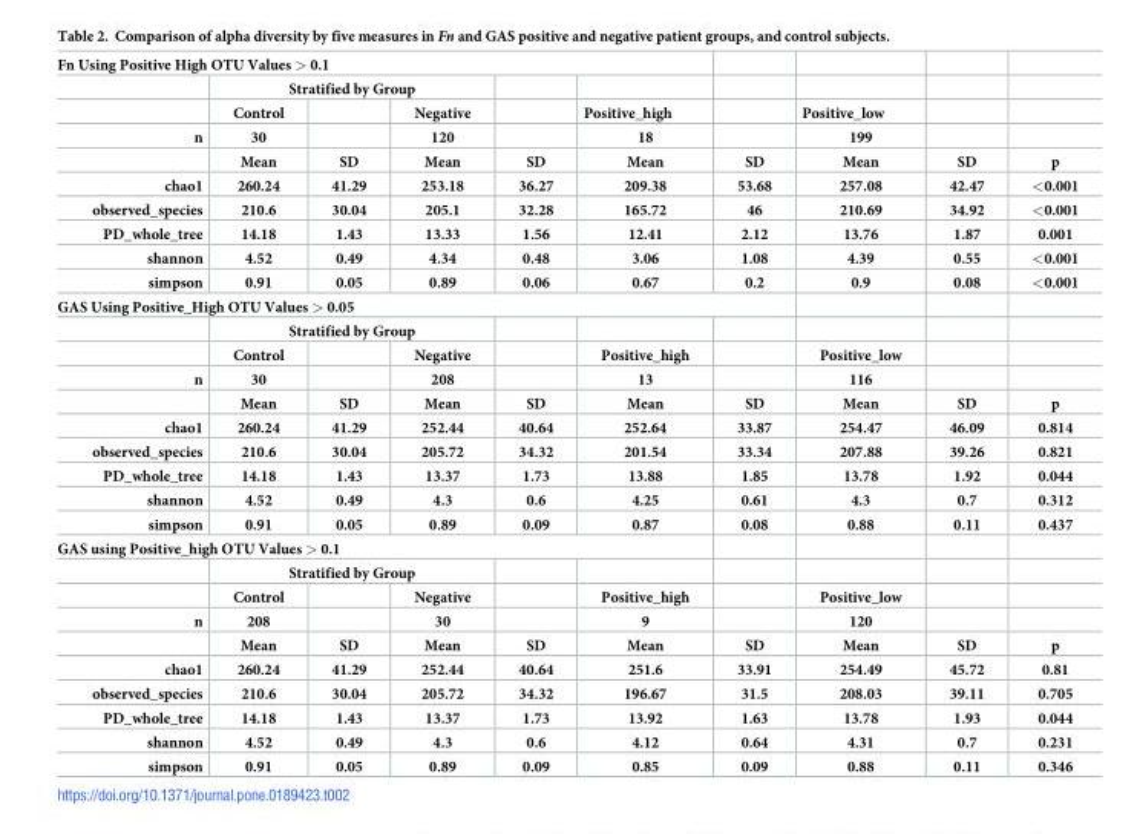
<table><tbody><tr><td colspan="10">Fn Using Positive High OTU Values &gt; 0.1</td></tr><tr><td></td><td colspan="3">Stratified by Group</td><td></td><td></td><td></td><td></td><td></td><td></td></tr><tr><td></td><td>Control</td><td></td><td>Negative</td><td></td><td>Positive_high</td><td></td><td>Positive_low</td><td></td><td></td></tr><tr><td rowspan="2">n</td><td>30</td><td></td><td>120</td><td></td><td>18</td><td></td><td>199</td><td></td><td></td></tr><tr><td>Mean</td><td>SD</td><td>Mean</td><td>SD</td><td>Mean</td><td>SD</td><td>Mean</td><td>SD</td><td>p</td></tr><tr><td>chao1</td><td>260.24</td><td>41.29</td><td>253.18</td><td>36.27</td><td>209.38</td><td>53.68</td><td>257.08</td><td>42.47</td><td>&lt;0.001</td></tr><tr><td>observed_species</td><td>210.6</td><td>30.04</td><td>205.1</td><td>32.28</td><td>165.72</td><td>46</td><td>210.69</td><td>34.92</td><td>&lt;0.001</td></tr><tr><td>PD_whole_tree</td><td>14.18</td><td>1.43</td><td>13.33</td><td>1.56</td><td>12.41</td><td>2.12</td><td>13.76</td><td>1.87</td><td>0.001</td></tr><tr><td>shannon</td><td>4.52</td><td>0.49</td><td>4.34</td><td>0.48</td><td>3.06</td><td>1.08</td><td>4.39</td><td>0.55</td><td>&lt;0.001</td></tr><tr><td>simpson</td><td>0.91</td><td>0.05</td><td>0.89</td><td>0.06</td><td>0.67</td><td>0.2</td><td>0.9</td><td>0.08</td><td>&lt;0.001</td></tr><tr><td colspan="10">GAS Using Positive_High OTU Values &gt; 0.05</td></tr><tr><td></td><td colspan="3">Stratified by Group</td><td></td><td></td><td></td><td></td><td></td><td></td></tr><tr><td></td><td>Control</td><td></td><td>Negative</td><td></td><td>Positive_high</td><td></td><td>Positive_low</td><td></td><td></td></tr><tr><td rowspan="2">n</td><td>30</td><td></td><td>208</td><td></td><td>13</td><td></td><td>116</td><td></td><td></td></tr><tr><td>Mean</td><td>SD</td><td>Mean</td><td>SD</td><td>Mean</td><td>SD</td><td>Mean</td><td>SD</td><td>p</td></tr><tr><td>chao1</td><td>260.24</td><td>41.29</td><td>252.44</td><td>40.64</td><td>252.64</td><td>33.87</td><td>254.47</td><td>46.09</td><td>0.814</td></tr><tr><td>observed_species</td><td>210.6</td><td>30.04</td><td>205.72</td><td>34.32</td><td>201.54</td><td>33.34</td><td>207.88</td><td>39.26</td><td>0.821</td></tr><tr><td>PD_whole_tree</td><td>14.18</td><td>1.43</td><td>13.37</td><td>1.73</td><td>13.88</td><td>1.85</td><td>13.78</td><td>1.92</td><td>0.044</td></tr><tr><td>shannon</td><td>4.52</td><td>0.49</td><td>4.3</td><td>0.6</td><td>4.25</td><td>0.61</td><td>4.3</td><td>0.7</td><td>0.312</td></tr><tr><td>simpson</td><td>0.91</td><td>0.05</td><td>0.89</td><td>0.09</td><td>0.87</td><td>0.08</td><td>0.88</td><td>0.11</td><td>0.437</td></tr><tr><td colspan="10">GAS using Positive_high OTU Values &gt; 0.1</td></tr><tr><td></td><td colspan="3">Stratified by Group</td><td></td><td></td><td></td><td></td><td></td><td></td></tr><tr><td></td><td>Control</td><td></td><td>Negative</td><td></td><td>Positive_high</td><td></td><td>Positive_low</td><td></td><td></td></tr><tr><td rowspan="2">n</td><td>208</td><td></td><td>30</td><td></td><td>9</td><td></td><td>120</td><td></td><td></td></tr><tr><td>Mean</td><td>SD</td><td>Mean</td><td>SD</td><td>Mean</td><td>SD</td><td>Mean</td><td>SD</td><td>p</td></tr><tr><td>chao1</td><td>260.24</td><td>41.29</td><td>252.44</td><td>40.64</td><td>251.6</td><td>33.91</td><td>254.49</td><td>45.72</td><td>0.81</td></tr><tr><td>observed_species</td><td>210.6</td><td>30.04</td><td>205.72</td><td>34.32</td><td>196.67</td><td>31.5</td><td>208.03</td><td>39.11</td><td>0.705</td></tr><tr><td>PD_whole_tree</td><td>14.18</td><td>1.43</td><td>13.37</td><td>1.73</td><td>13.92</td><td>1.63</td><td>13.78</td><td>1.93</td><td>0.044</td></tr><tr><td>shannon</td><td>4.52</td><td>0.49</td><td>4.3</td><td>0.6</td><td>4.12</td><td>0.64</td><td>4.31</td><td>0.7</td><td>0.231</td></tr><tr><td>simpson</td><td>0.91</td><td>0.05</td><td>0.89</td><td>0.09</td><td>0.85</td><td>0.09</td><td>0.88</td><td>0.11</td><td>0.346</td></tr></tbody></table>